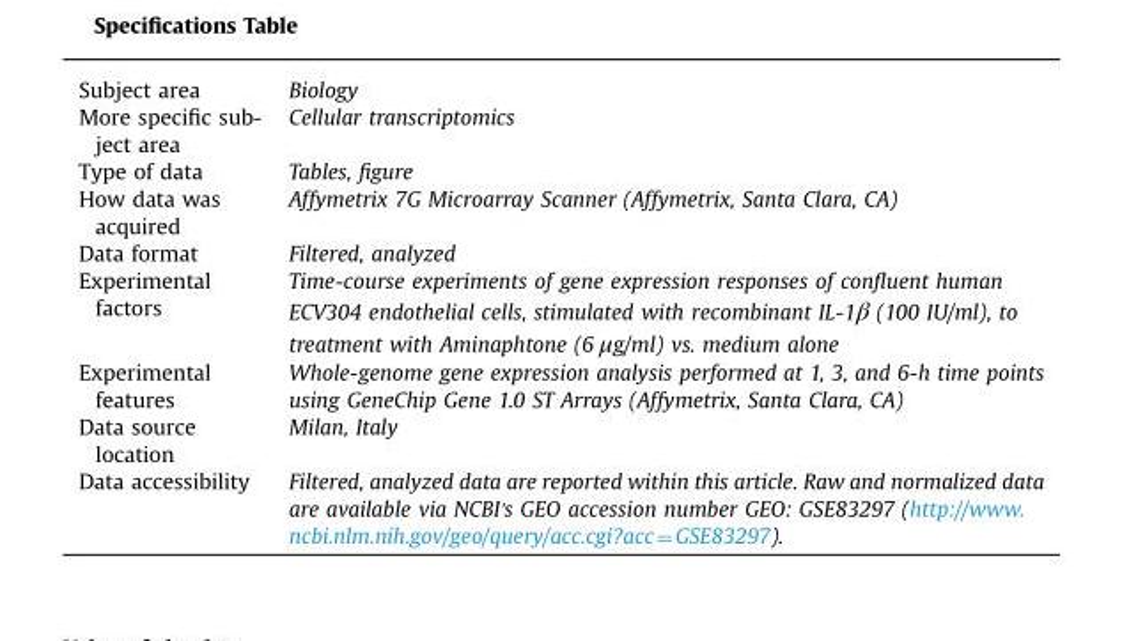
<table><tbody><tr><td>Subject area</td><td>Biology</td></tr><tr><td>More specific sub- ject area</td><td>Cellular transcriptomics</td></tr><tr><td>Type of data</td><td>Tables, figure</td></tr><tr><td>How data was acquired</td><td>Affymetrix 7G Microarray Scanner (Affymetrix, Santa Clara, CA)</td></tr><tr><td>Data format</td><td>Filtered, analyzed</td></tr><tr><td>Experimental factors</td><td>Time-course experiments of gene expression responses of confluent human ECV304 endothelial cells, stimulated with recombinant IL-1β (100 IU/ml), to treatment with Aminaphtone (6 μg/ml) vs. medium alone</td></tr><tr><td>Experimental features</td><td>Whole-genome gene expression analysis performed at 1, 3, and 6-h time points using GeneChip Gene 1.0 ST Arrays (Affymetrix, Santa Clara, CA)</td></tr><tr><td>Data source location</td><td>Milan, Italy</td></tr><tr><td>Data accessibility</td><td>Filtered, analyzed data are reported within this article. Raw and normalized data are available via NCBI&#x27;s GEO accession number GEO: GSE83297 (http://www. ncbi.nlm.nih.gov/geo/query/acc.cgi?acc=GSE83297).</td></tr></tbody></table>